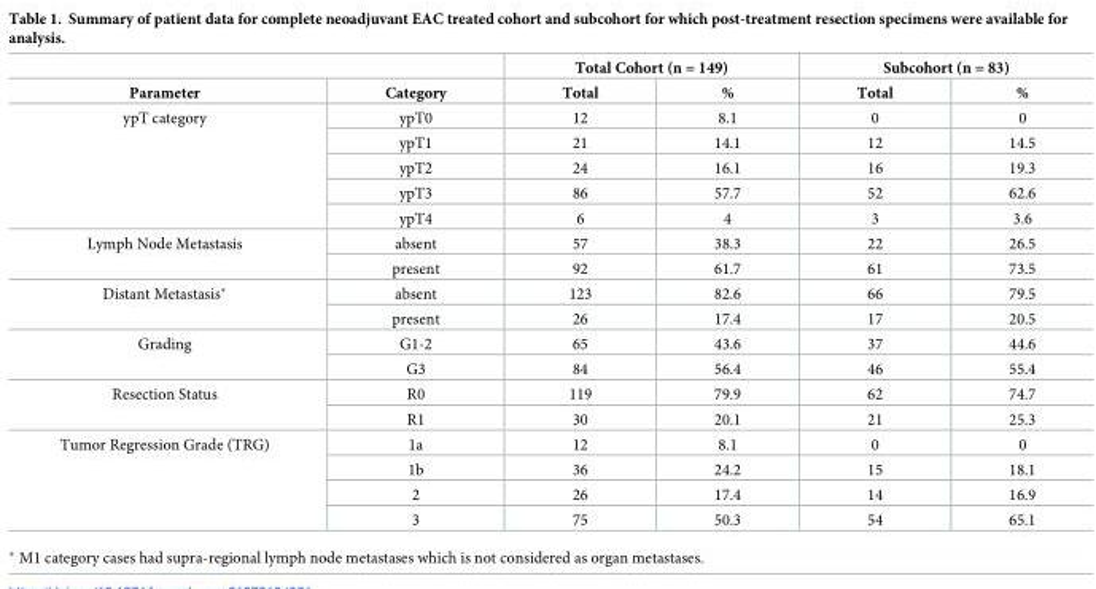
<table><thead><tr><td rowspan="2">Parameter</td><td rowspan="2">Category</td><td colspan="2">Total Cohort (n = 149)</td><td colspan="2">Subcohort (n = 83)</td></tr><tr><td>Total</td><td>%</td><td>Total</td><td>%</td></tr></thead><tbody><tr><td rowspan="5">ypT category</td><td>ypT0</td><td>12</td><td>8.1</td><td>0</td><td>0</td></tr><tr><td>ypT1</td><td>21</td><td>14.1</td><td>12</td><td>14.5</td></tr><tr><td>ypT2</td><td>24</td><td>16.1</td><td>16</td><td>19.3</td></tr><tr><td>ypT3</td><td>86</td><td>57.7</td><td>52</td><td>62.6</td></tr><tr><td>ypT4</td><td>6</td><td>4</td><td>3</td><td>3.6</td></tr><tr><td rowspan="2">Lymph Node Metastasis</td><td>absent</td><td>57</td><td>38.3</td><td>22</td><td>26.5</td></tr><tr><td>present</td><td>92</td><td>61.7</td><td>61</td><td>73.5</td></tr><tr><td rowspan="2">Distant Metastasis*</td><td>absent</td><td>123</td><td>82.6</td><td>66</td><td>79.5</td></tr><tr><td>present</td><td>26</td><td>17.4</td><td>17</td><td>20.5</td></tr><tr><td rowspan="2">Grading</td><td>G1-2</td><td>65</td><td>43.6</td><td>37</td><td>44.6</td></tr><tr><td>G3</td><td>84</td><td>56.4</td><td>46</td><td>55.4</td></tr><tr><td rowspan="2">Resection Status</td><td>R0</td><td>119</td><td>79.9</td><td>62</td><td>74.7</td></tr><tr><td>R1</td><td>30</td><td>20.1</td><td>21</td><td>25.3</td></tr><tr><td rowspan="4">Tumor Regression Grade (TRG)</td><td>1a</td><td>12</td><td>8.1</td><td>0</td><td>0</td></tr><tr><td>1b</td><td>36</td><td>24.2</td><td>15</td><td>18.1</td></tr><tr><td>2</td><td>26</td><td>17.4</td><td>14</td><td>16.9</td></tr><tr><td>3</td><td>75</td><td>50.3</td><td>54</td><td>65.1</td></tr></tbody></table>